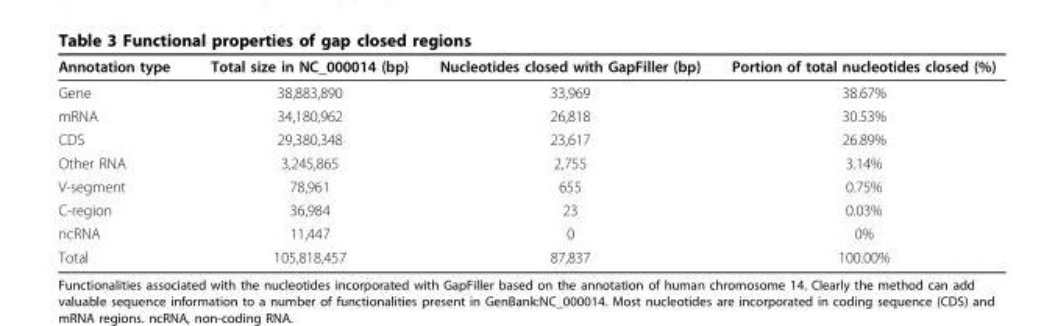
<table><thead><tr><td>Annotation type</td><td>Total size in NC_000014 (bp)</td><td>Nucleotides closed with GapFiller (bp)</td><td>Portion of total nucleotides closed (%)</td></tr></thead><tbody><tr><td>Gene</td><td>38,883,890</td><td>33,969</td><td>38.67%</td></tr><tr><td>mRNA</td><td>34,180,962</td><td>26,818</td><td>30.53%</td></tr><tr><td>CDS</td><td>29,380,348</td><td>23,617</td><td>26.89%</td></tr><tr><td>Other RNA</td><td>3,245,865</td><td>2,755</td><td>3.14%</td></tr><tr><td>V-segment</td><td>78,961</td><td>655</td><td>0.75%</td></tr><tr><td>C-region</td><td>36,984</td><td>23</td><td>0.03%</td></tr><tr><td>ncRNA</td><td>11,447</td><td>0</td><td>0%</td></tr><tr><td>Total</td><td>105,818,457</td><td>87,837</td><td>100.00%</td></tr></tbody></table>